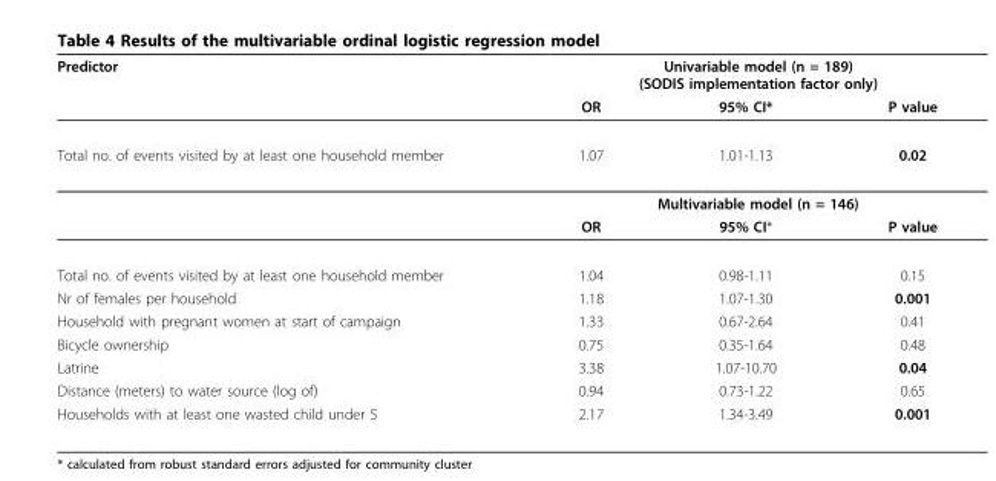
<table><thead><tr><td rowspan="2">Predictor</td><td colspan="3">Univariable model (n = 189) (SODIS implementation factor only)</td></tr><tr><td>OR</td><td>95% CI*</td><td>P value</td></tr></thead><tbody><tr><td rowspan="3">Total no. of events visited by at least one household member</td><td>1.07</td><td>1.01-1.13</td><td>0.02</td></tr><tr><td colspan="3">Multivariable model (n = 146)</td></tr><tr><td>OR</td><td>95% CI*</td><td>P value</td></tr><tr><td>Total no. of events visited by at least one household member</td><td>1.04</td><td>0.98-1.11</td><td>0.15</td></tr><tr><td>Nr of females per household</td><td>1.18</td><td>1.07-1.30</td><td>0.001</td></tr><tr><td>Household with pregnant women at start of campaign</td><td>1.33</td><td>0.67-2.64</td><td>0.41</td></tr><tr><td>Bicycle ownership</td><td>0.75</td><td>0.35-1.64</td><td>0.48</td></tr><tr><td>Latrine</td><td>3.38</td><td>1.07-10.70</td><td>0.04</td></tr><tr><td>Distance (meters) to water source (log of)</td><td>0.94</td><td>0.73-1.22</td><td>0.65</td></tr><tr><td>Households with at least one wasted child under 5</td><td>2.17</td><td>1.34-3.49</td><td>0.001</td></tr></tbody></table>